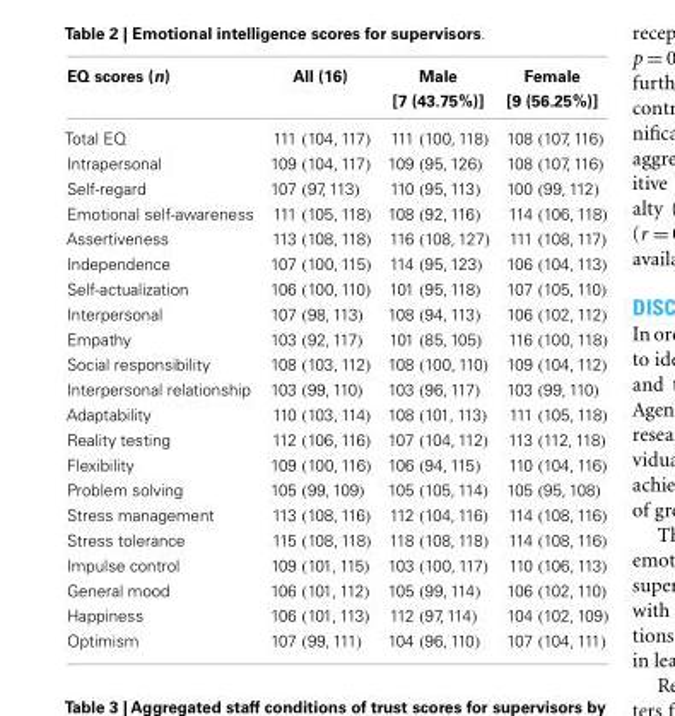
<table><thead><tr><td>EQ scores (n)</td><td>All (16)</td><td>Male [7 (43.75%)]</td><td>Female [9 (56.25%)]</td></tr></thead><tbody><tr><td>Total EQ</td><td>111 (104, 117)</td><td>111 (100, 118)</td><td>108 (107, 116)</td></tr><tr><td>Intrapersonal</td><td>109 (104, 117)</td><td>109 (95, 126)</td><td>108 (107, 116)</td></tr><tr><td>Self-regard</td><td>107 (97, 113)</td><td>110 (95, 113)</td><td>100 (99, 112)</td></tr><tr><td>Emotional self-awareness</td><td>111 (105, 118)</td><td>108 (92, 116)</td><td>114 (106, 118)</td></tr><tr><td>Assertiveness</td><td>113 (108, 118)</td><td>116 (108, 127)</td><td>111 (108, 117)</td></tr><tr><td>Independence</td><td>107 (100, 115)</td><td>114 (95, 123)</td><td>106 (104, 113)</td></tr><tr><td>Self-actualization</td><td>106 (100, 110)</td><td>101 (95, 118)</td><td>107 (105, 110)</td></tr><tr><td>Interpersonal</td><td>107 (98, 113)</td><td>108 (94, 113)</td><td>106 (102, 112)</td></tr><tr><td>Empathy</td><td>103 (92, 117)</td><td>101 (85, 105)</td><td>116 (100, 118)</td></tr><tr><td>Social responsibility</td><td>108 (103, 112)</td><td>108 (100, 110)</td><td>109 (104, 112)</td></tr><tr><td>Interpersonal relationship</td><td>103 (99, 110)</td><td>103 (96, 117)</td><td>103 (99, 110)</td></tr><tr><td>Adaptability</td><td>110 (103, 114)</td><td>108 (101, 113)</td><td>111 (105, 118)</td></tr><tr><td>Reality testing</td><td>112 (106, 116)</td><td>107 (104, 112)</td><td>113 (112, 118)</td></tr><tr><td>Flexibility</td><td>109 (100, 116)</td><td>106 (94, 115)</td><td>110 (104, 116)</td></tr><tr><td>Problem solving</td><td>105 (99, 109)</td><td>105 (105, 114)</td><td>105 (95, 108)</td></tr><tr><td>Stress management</td><td>113 (108, 116)</td><td>112 (104, 116)</td><td>114 (108, 116)</td></tr><tr><td>Stress tolerance</td><td>115 (108, 118)</td><td>118 (108, 118)</td><td>114 (108, 116)</td></tr><tr><td>Impulse control</td><td>109 (101, 115)</td><td>103 (100, 117)</td><td>110 (106, 113)</td></tr><tr><td>General mood</td><td>106 (101, 112)</td><td>105 (99, 114)</td><td>106 (102, 110)</td></tr><tr><td>Happiness</td><td>106 (101, 113)</td><td>112 (97, 114)</td><td>104 (102, 109)</td></tr><tr><td>Optimism</td><td>107 (99, 111)</td><td>104 (96, 110)</td><td>107 (104, 111)</td></tr></tbody></table>